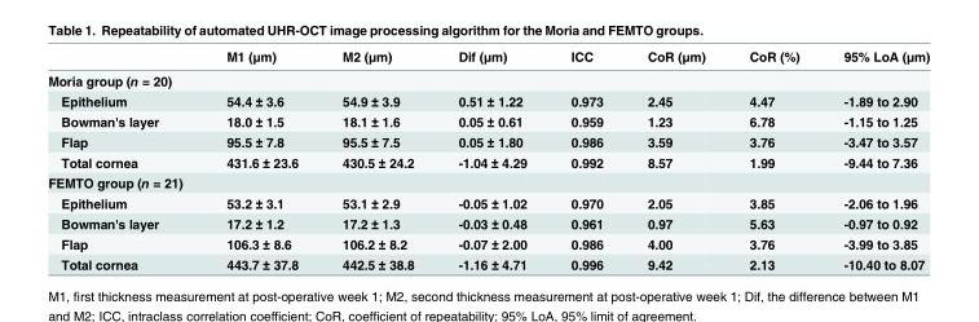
<table><thead><tr><td></td><td>M1 (μm)</td><td>M2 (μm)</td><td>Dif (μm)</td><td>ICC</td><td>CoR (μm)</td><td>CoR (%)</td><td>95% LoA (μm)</td></tr></thead><tbody><tr><td colspan="8">Moria group (n = 20)</td></tr><tr><td>Epithelium</td><td>54.4 ± 3.6</td><td>54.9 ± 3.9</td><td>0.51 ± 1.22</td><td>0.973</td><td>2.45</td><td>4.47</td><td>-1.89 to 2.90</td></tr><tr><td>Bowman&#x27;s layer</td><td>18.0 ± 1.5</td><td>18.1 ± 1.6</td><td>0.05 ± 0.61</td><td>0.959</td><td>1.23</td><td>6.78</td><td>-1.15 to 1.25</td></tr><tr><td>Flap</td><td>95.5 ± 7.8</td><td>95.5 ± 7.5</td><td>0.05 ± 1.80</td><td>0.986</td><td>3.59</td><td>3.76</td><td>-3.47 to 3.57</td></tr><tr><td>Total cornea</td><td>431.6 ± 23.6</td><td>430.5 ± 24.2</td><td>-1.04 ± 4.29</td><td>0.992</td><td>8.57</td><td>1.99</td><td>-9.44 to 7.36</td></tr><tr><td colspan="8">FEMTO group (n = 21)</td></tr><tr><td>Epithelium</td><td>53.2 ± 3.1</td><td>53.1 ± 2.9</td><td>-0.05 ± 1.02</td><td>0.970</td><td>2.05</td><td>3.85</td><td>-2.06 to 1.96</td></tr><tr><td>Bowman&#x27;s layer</td><td>17.2 ± 1.2</td><td>17.2 ± 1.3</td><td>-0.03 ± 0.48</td><td>0.961</td><td>0.97</td><td>5.63</td><td>-0.97 to 0.92</td></tr><tr><td>Flap</td><td>106.3 ± 8.6</td><td>106.2 ± 8.2</td><td>-0.07 ± 2.00</td><td>0.986</td><td>4.00</td><td>3.76</td><td>-3.99 to 3.85</td></tr><tr><td>Total cornea</td><td>443.7 ± 37.8</td><td>442.5 ± 38.8</td><td>-1.16 ± 4.71</td><td>0.996</td><td>9.42</td><td>2.13</td><td>-10.40 to 8.07</td></tr></tbody></table>